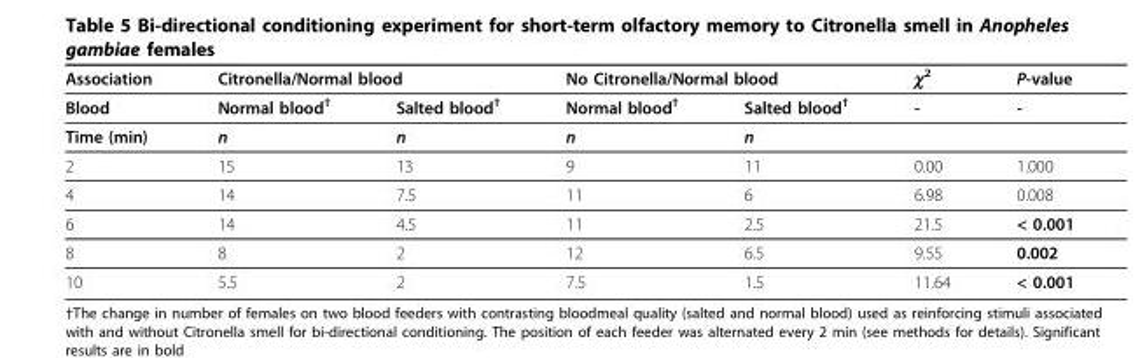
<table><thead><tr><td rowspan="2">Association Blood</td><td colspan="2">Citronella/Normal blood</td><td colspan="2">No Citronella/Normal blood</td><td rowspan="2">χ2 -</td><td rowspan="2">P-value -</td></tr><tr><td>Normal blood†</td><td>Salted blood†</td><td>Normal blood†</td><td>Salted blood†</td></tr></thead><tbody><tr><td>Time (min)</td><td>n</td><td>n</td><td>n</td><td>n</td><td></td><td></td></tr><tr><td>2</td><td>15</td><td>13</td><td>9</td><td>11</td><td>0.00</td><td>1.000</td></tr><tr><td>4</td><td>14</td><td>7.5</td><td>11</td><td>6</td><td>6.98</td><td>0.008</td></tr><tr><td>6</td><td>14</td><td>4.5</td><td>11</td><td>2.5</td><td>21.5</td><td>&lt; 0.001</td></tr><tr><td>8</td><td>8</td><td>2</td><td>12</td><td>6.5</td><td>9.55</td><td>0.002</td></tr><tr><td>10</td><td>5.5</td><td>2</td><td>7.5</td><td>1.5</td><td>11.64</td><td>&lt; 0.001</td></tr></tbody></table>